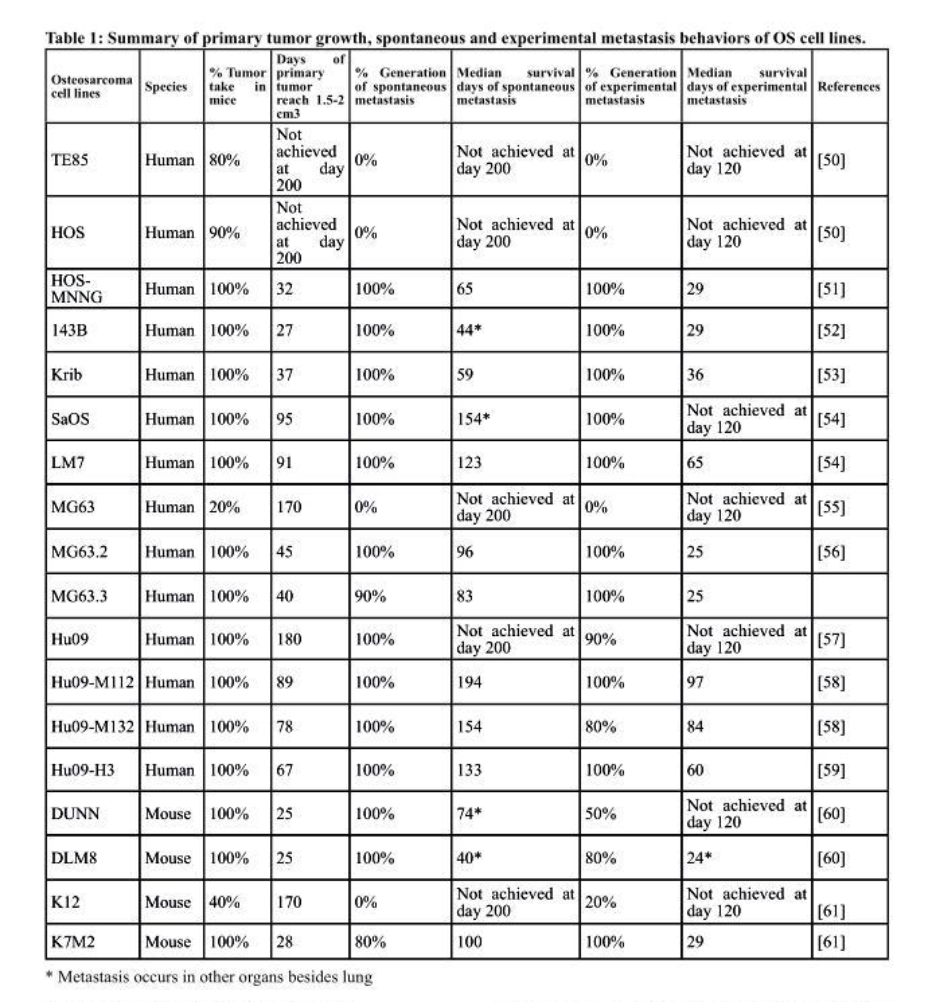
<table><thead><tr><td>osteosarcoma cell lines</td><td>species</td><td>% tumor take in mice</td><td>days of primary tumor reach 1.5-2 cm3</td><td>% Generation of spontaneous metastasis</td><td>Median survival days of spontaneous metastasis</td><td>% Generation of experimental metastasis</td><td>Median survival days of experimental metastasis</td><td>references</td></tr></thead><tbody><tr><td>TE85</td><td>Human</td><td>80%</td><td>Not achieved at day 200</td><td>0%</td><td>Not achieved at day 200</td><td>0%</td><td>Not achieved at day 120</td><td>[50]</td></tr><tr><td>HOS</td><td>Human</td><td>90%</td><td>Not achieved at day 200</td><td>0%</td><td>Not achieved at day 200</td><td>0%</td><td>Not achieved at day 120</td><td>[50]</td></tr><tr><td>HOS- MNNG</td><td>Human</td><td>100%</td><td>32</td><td>100%</td><td>65</td><td>100%</td><td>29</td><td>[51]</td></tr><tr><td>143B</td><td>Human</td><td>100%</td><td>27</td><td>100%</td><td>44*</td><td>100%</td><td>29</td><td>[52]</td></tr><tr><td>Krib</td><td>Human</td><td>100%</td><td>37</td><td>100%</td><td>59</td><td>100%</td><td>36</td><td>[53]</td></tr><tr><td>SaOS</td><td>Human</td><td>100%</td><td>95</td><td>100%</td><td>154*</td><td>100%</td><td>Not achieved at day 120</td><td>[54]</td></tr><tr><td>LM7</td><td>Human</td><td>100%</td><td>91</td><td>100%</td><td>123</td><td>100%</td><td>65</td><td>[54]</td></tr><tr><td>MG63</td><td>Human</td><td>20%</td><td>170</td><td>0%</td><td>Not achieved at day 200</td><td>0%</td><td>Not achieved at day 120</td><td>[55]</td></tr><tr><td>MG63.2</td><td>Human</td><td>100%</td><td>45</td><td>100%</td><td>96</td><td>100%</td><td>25</td><td>[56]</td></tr><tr><td>MG63.3</td><td>Human</td><td>100%</td><td>40</td><td>90%</td><td>83</td><td>100%</td><td>25</td><td></td></tr><tr><td>Hu09</td><td>Human</td><td>100%</td><td>180</td><td>100%</td><td>Not achieved at day 200</td><td>90%</td><td>Not achieved at day 120</td><td>[57]</td></tr><tr><td>Hu09-M112</td><td>Human</td><td>100%</td><td>89</td><td>100%</td><td>194</td><td>100%</td><td>97</td><td>[58]</td></tr><tr><td>Hu09-M132</td><td>Human</td><td>100%</td><td>78</td><td>100%</td><td>154</td><td>80%</td><td>84</td><td>[58]</td></tr><tr><td>Hu09-H3</td><td>Human</td><td>100%</td><td>67</td><td>100%</td><td>133</td><td>100%</td><td>60</td><td>[59]</td></tr><tr><td>DUNN</td><td>Mouse</td><td>100%</td><td>25</td><td>100%</td><td>74*</td><td>50%</td><td>Not achieved at day 120</td><td>[60]</td></tr><tr><td>DLM8</td><td>Mouse</td><td>100%</td><td>25</td><td>100%</td><td>40*</td><td>80%</td><td>24*</td><td>[60]</td></tr><tr><td>K12</td><td>Mouse</td><td>40%</td><td>170</td><td>0%</td><td>Not achieved at day 200</td><td>20%</td><td>Not achieved at day 120</td><td>[61]</td></tr><tr><td>K7M2</td><td>Mouse</td><td>100%</td><td>28</td><td>80%</td><td>100</td><td>100%</td><td>29</td><td>[61]</td></tr></tbody></table>